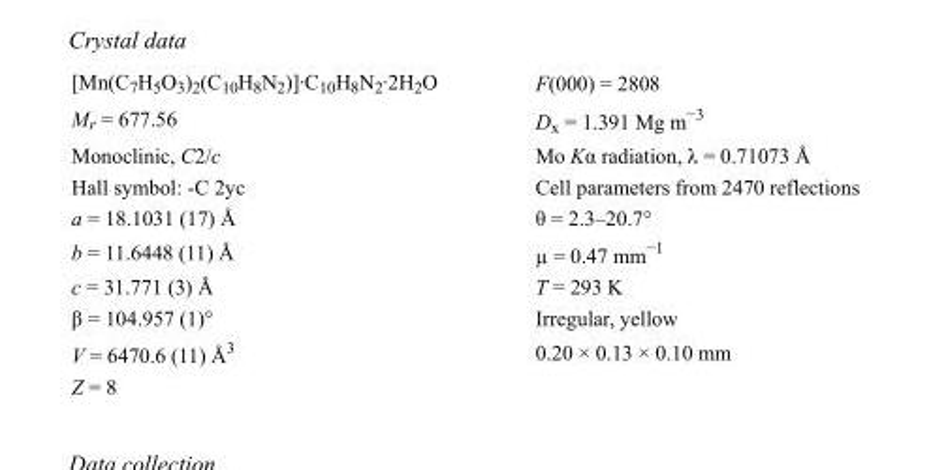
<table><tbody><tr><td>[Mn(C<sub>7</sub>H<sub>5</sub>O<sub>3</sub>)<sub>2</sub>(C<sub>10</sub>H<sub>8</sub>N<sub>2</sub>)]·C<sub>10</sub>H<sub>8</sub>N<sub>2</sub>·2H<sub>2</sub>O</td><td>F(000) = 2808</td></tr><tr><td>M<sub>r</sub> = 677.56</td><td>D<sub>x</sub> = 1.391 Mg m<sup>−3</sup></td></tr><tr><td>Monoclinic, C2/c</td><td>Mo Kα radiation, λ = 0.71073 Å</td></tr><tr><td>Hall symbol: -C 2yc</td><td>Cell parameters from 2470 reflections</td></tr><tr><td>a = 18.1031 (17) Å</td><td>θ = 2.3–20.7°</td></tr><tr><td>b = 11.6448 (11) Å</td><td>µ = 0.47 mm<sup>−1</sup></td></tr><tr><td>c = 31.771 (3) Å</td><td>T = 293 K</td></tr><tr><td>β = 104.957 (1)°</td><td>Irregular, yellow</td></tr><tr><td>V = 6470.6 (11) Å<sup>3</sup></td><td>0.20 × 0.13 × 0.10 mm</td></tr><tr><td>Z = 8</td><td></td></tr></tbody></table>